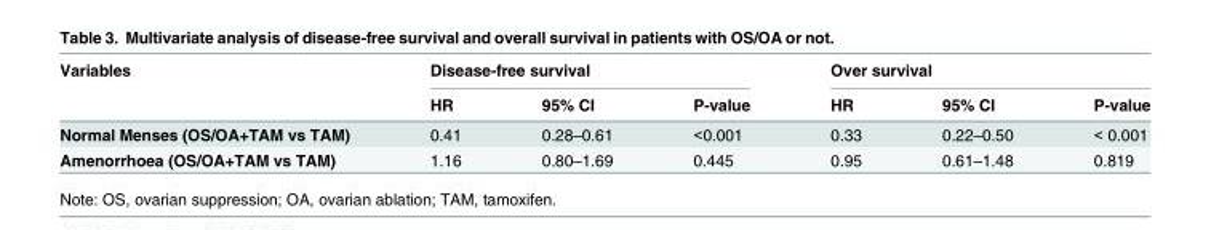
<table><thead><tr><td rowspan="2">Variables</td><td colspan="3">Disease-free survival</td><td colspan="3">Over survival</td></tr><tr><td>HR</td><td>95% CI</td><td>P-value</td><td>HR</td><td>95% CI</td><td>P-value</td></tr></thead><tbody><tr><td>Normal Menses (OS/OA+TAM vs TAM)</td><td>0.41</td><td>0.28–0.61</td><td>&lt;0.001</td><td>0.33</td><td>0.22–0.50</td><td>&lt; 0.001</td></tr><tr><td>Amenorrhoea (OS/OA+TAM vs TAM)</td><td>1.16</td><td>0.80–1.69</td><td>0.445</td><td>0.95</td><td>0.61–1.48</td><td>0.819</td></tr></tbody></table>